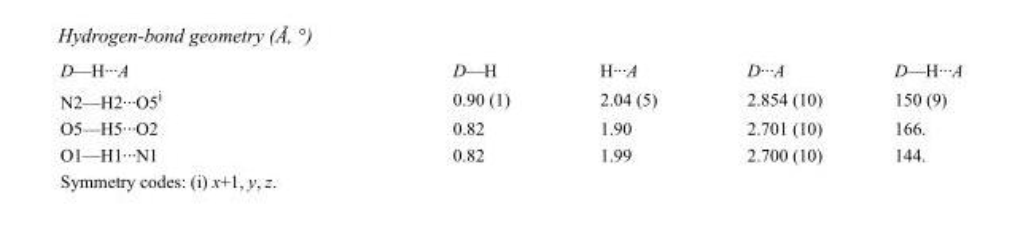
<table><tbody><tr><td>D—H···A</td><td>D—H</td><td>H···A</td><td>D···A</td><td>D—H···A</td></tr><tr><td>N2—H2···O5<sup>i</sup></td><td>0.90 (1)</td><td>2.04 (5)</td><td>2.854 (10)</td><td>150 (9)</td></tr><tr><td>O5—H5···O2</td><td>0.82</td><td>1.90</td><td>2.701 (10)</td><td>166.</td></tr><tr><td>O1—H1···N1</td><td>0.82</td><td>1.99</td><td>2.700 (10)</td><td>144.</td></tr></tbody></table>